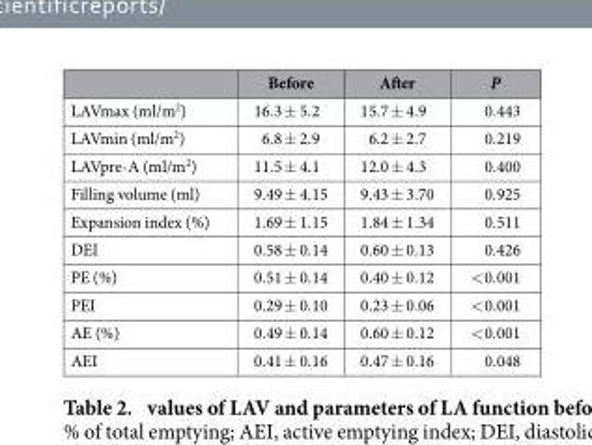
<table><thead><tr><td></td><td>Before</td><td>After</td><td>P</td></tr></thead><tbody><tr><td>LAVmax (ml/m<sup>2</sup>)</td><td>16.3 ± 5.2</td><td>15.7 ± 4.9</td><td>0.443</td></tr><tr><td>LAVmin (ml/m<sup>2</sup>)</td><td>6.8 ± 2.9</td><td>6.2 ± 2.7</td><td>0.219</td></tr><tr><td>LAVpre-A (ml/m<sup>2</sup>)</td><td>11.5 ± 4.1</td><td>12.0 ± 4.3</td><td>0.400</td></tr><tr><td>Filling volume (ml)</td><td>9.49 ± 4.15</td><td>9.43 ± 3.70</td><td>0.925</td></tr><tr><td>Expansion index (%)</td><td>1.69 ± 1.15</td><td>1.84 ± 1.34</td><td>0.511</td></tr><tr><td>DEI</td><td>0.58 ± 0.14</td><td>0.60 ± 0.13</td><td>0.426</td></tr><tr><td>PE (%)</td><td>0.51 ± 0.14</td><td>0.40 ± 0.12</td><td>&lt; 0.001</td></tr><tr><td>PEI</td><td>0.29 ± 0.10</td><td>0.23 ± 0.06</td><td>&lt; 0.001</td></tr><tr><td>AE (%)</td><td>0.49 ± 0.14</td><td>0.60 ± 0.12</td><td>&lt; 0.001</td></tr><tr><td>AEI</td><td>0.41 ± 0.16</td><td>0.47 ± 0.16</td><td>0.048</td></tr></tbody></table>